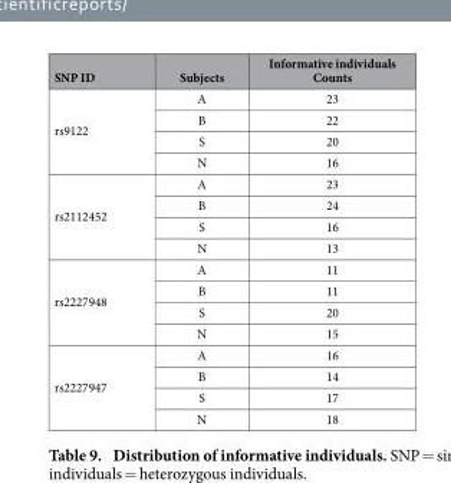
<table><thead><tr><td>SNP ID</td><td>Subjects</td><td>Informative individuals Counts</td></tr></thead><tbody><tr><td rowspan="4">rs9122</td><td>A</td><td>23</td></tr><tr><td>B</td><td>22</td></tr><tr><td>S</td><td>20</td></tr><tr><td>N</td><td>16</td></tr><tr><td rowspan="4">rs2112452</td><td>A</td><td>23</td></tr><tr><td>B</td><td>24</td></tr><tr><td>S</td><td>16</td></tr><tr><td>N</td><td>13</td></tr><tr><td rowspan="4">rs2227948</td><td>A</td><td>11</td></tr><tr><td>B</td><td>11</td></tr><tr><td>S</td><td>20</td></tr><tr><td>N</td><td>15</td></tr><tr><td rowspan="4">rs2227947</td><td>A</td><td>16</td></tr><tr><td>B</td><td>14</td></tr><tr><td>S</td><td>17</td></tr><tr><td>N</td><td>18</td></tr></tbody></table>